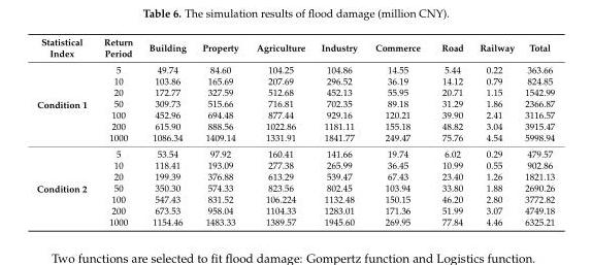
<table><thead><tr><td>Statistical Index</td><td>Return Period</td><td>Building</td><td>Property</td><td>Agriculture</td><td>Industry</td><td>Commerce</td><td>Road</td><td>Railway</td><td>Total</td></tr></thead><tbody><tr><td rowspan="7">Condition 1</td><td>5</td><td>49.74</td><td>84.60</td><td>104.25</td><td>104.86</td><td>14.55</td><td>5.44</td><td>0.22</td><td>363.66</td></tr><tr><td>10</td><td>103.86</td><td>165.69</td><td>207.69</td><td>296.52</td><td>36.19</td><td>14.12</td><td>0.79</td><td>824.85</td></tr><tr><td>20</td><td>172.77</td><td>327.59</td><td>512.68</td><td>452.13</td><td>55.95</td><td>20.71</td><td>1.15</td><td>1542.99</td></tr><tr><td>50</td><td>309.73</td><td>515.66</td><td>716.81</td><td>702.35</td><td>89.18</td><td>31.29</td><td>1.86</td><td>2366.87</td></tr><tr><td>100</td><td>452.96</td><td>694.48</td><td>877.44</td><td>929.16</td><td>120.21</td><td>39.90</td><td>2.41</td><td>3116.57</td></tr><tr><td>200</td><td>615.90</td><td>888.56</td><td>1022.86</td><td>1181.11</td><td>155.18</td><td>48.82</td><td>3.04</td><td>3915.47</td></tr><tr><td>1000</td><td>1086.34</td><td>1409.14</td><td>1331.91</td><td>1841.77</td><td>249.47</td><td>75.76</td><td>4.54</td><td>5998.94</td></tr><tr><td rowspan="7">Condition 2</td><td>5</td><td>53.54</td><td>97.92</td><td>160.41</td><td>141.66</td><td>19.74</td><td>6.02</td><td>0.29</td><td>479.57</td></tr><tr><td>10</td><td>118.41</td><td>193.09</td><td>277.38</td><td>265.99</td><td>36.45</td><td>10.99</td><td>0.55</td><td>902.86</td></tr><tr><td>20</td><td>199.39</td><td>376.88</td><td>613.29</td><td>539.47</td><td>67.43</td><td>23.40</td><td>1.26</td><td>1821.13</td></tr><tr><td>50</td><td>350.30</td><td>574.33</td><td>823.56</td><td>802.45</td><td>103.94</td><td>33.80</td><td>1.88</td><td>2690.26</td></tr><tr><td>100</td><td>547.43</td><td>831.52</td><td>106.224</td><td>1132.48</td><td>150.15</td><td>46.20</td><td>2.80</td><td>3772.82</td></tr><tr><td>200</td><td>673.53</td><td>958.04</td><td>1104.33</td><td>1283.01</td><td>171.36</td><td>51.99</td><td>3.07</td><td>4749.18</td></tr><tr><td>1000</td><td>1154.46</td><td>1483.33</td><td>1389.57</td><td>1945.60</td><td>269.95</td><td>77.84</td><td>4.46</td><td>6325.21</td></tr></tbody></table>